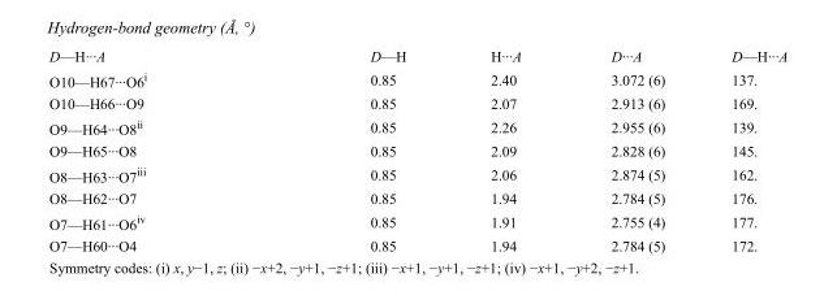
<table><tbody><tr><td>D—H···A</td><td>D—H</td><td>H···A</td><td>D···A</td><td>D—H···A</td></tr><tr><td>O10—H67···O6<sup>i</sup></td><td>0.85</td><td>2.40</td><td>3.072 (6)</td><td>137.</td></tr><tr><td>O10—H66···O9</td><td>0.85</td><td>2.07</td><td>2.913 (6)</td><td>169.</td></tr><tr><td>O9—H64···O8<sup>ii</sup></td><td>0.85</td><td>2.26</td><td>2.955 (6)</td><td>139.</td></tr><tr><td>O9—H65···O8</td><td>0.85</td><td>2.09</td><td>2.828 (6)</td><td>145.</td></tr><tr><td>O8—H63···O7<sup>iii</sup></td><td>0.85</td><td>2.06</td><td>2.874 (5)</td><td>162.</td></tr><tr><td>O8—H62···O7</td><td>0.85</td><td>1.94</td><td>2.784 (5)</td><td>176.</td></tr><tr><td>O7—H61···O6<sup>iv</sup></td><td>0.85</td><td>1.91</td><td>2.755 (4)</td><td>177.</td></tr><tr><td>O7—H60···O4</td><td>0.85</td><td>1.94</td><td>2.784 (5)</td><td>172.</td></tr></tbody></table>